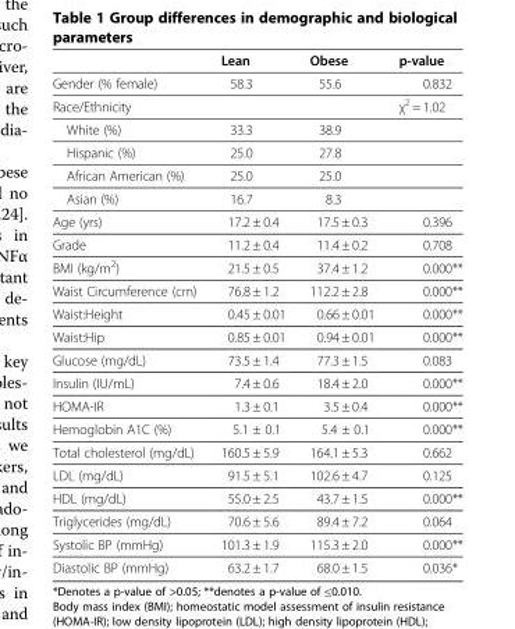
<table><thead><tr><td></td><td>Lean</td><td>Obese</td><td>p-value</td></tr></thead><tbody><tr><td>Gender (% female)</td><td>58.3</td><td>55.6</td><td>0.832</td></tr><tr><td>Race/Ethnicity</td><td></td><td></td><td>χ<sup>2</sup> = 1.02</td></tr><tr><td>White (%)</td><td>33.3</td><td>38.9</td><td></td></tr><tr><td>Hispanic (%)</td><td>25.0</td><td>27.8</td><td></td></tr><tr><td>African American (%)</td><td>25.0</td><td>25.0</td><td></td></tr><tr><td>Asian (%)</td><td>16.7</td><td>8.3</td><td></td></tr><tr><td>Age (yrs)</td><td>17.2 ± 0.4</td><td>17.5 ± 0.3</td><td>0.396</td></tr><tr><td>Grade</td><td>11.2 ± 0.4</td><td>11.4 ± 0.2</td><td>0.708</td></tr><tr><td>BMI (kg/m<sup>2</sup>)</td><td>21.5 ± 0.5</td><td>37.4 ± 1.2</td><td>0.000**</td></tr><tr><td>Waist Circumference (cm)</td><td>76.8 ± 1.2</td><td>112.2 ± 2.8</td><td>0.000**</td></tr><tr><td>Waist:Height</td><td>0.45 ± 0.01</td><td>0.66 ± 0.01</td><td>0.000**</td></tr><tr><td>Waist:Hip</td><td>0.85 ± 0.01</td><td>0.94 ± 0.01</td><td>0.000**</td></tr><tr><td>Glucose (mg/dL)</td><td>73.5 ± 1.4</td><td>77.3 ± 1.5</td><td>0.083</td></tr><tr><td>Insulin (IU/mL)</td><td>7.4 ± 0.6</td><td>18.4 ± 2.0</td><td>0.000**</td></tr><tr><td>HOMA-IR</td><td>1.3 ± 0.1</td><td>3.5 ± 0.4</td><td>0.000**</td></tr><tr><td>Hemoglobin A1C (%)</td><td>5.1 ± 0.1</td><td>5.4 ± 0.1</td><td>0.000**</td></tr><tr><td>Total cholesterol (mg/dL)</td><td>160.5 ± 5.9</td><td>164.1 ± 5.3</td><td>0.662</td></tr><tr><td>LDL (mg/dL)</td><td>91.5 ± 5.1</td><td>102.6 ± 4.7</td><td>0.125</td></tr><tr><td>HDL (mg/dL)</td><td>55.0 ± 2.5</td><td>43.7 ± 1.5</td><td>0.000**</td></tr><tr><td>Triglycerides (mg/dL)</td><td>70.6 ± 5.6</td><td>89.4 ± 7.2</td><td>0.064</td></tr><tr><td>Systolic BP (mmHg)</td><td>101.3 ± 1.9</td><td>115.3 ± 2.0</td><td>0.000**</td></tr><tr><td>Diastolic BP (mmHg)</td><td>63.2 ± 1.7</td><td>68.0 ± 1.5</td><td>0.036*</td></tr></tbody></table>